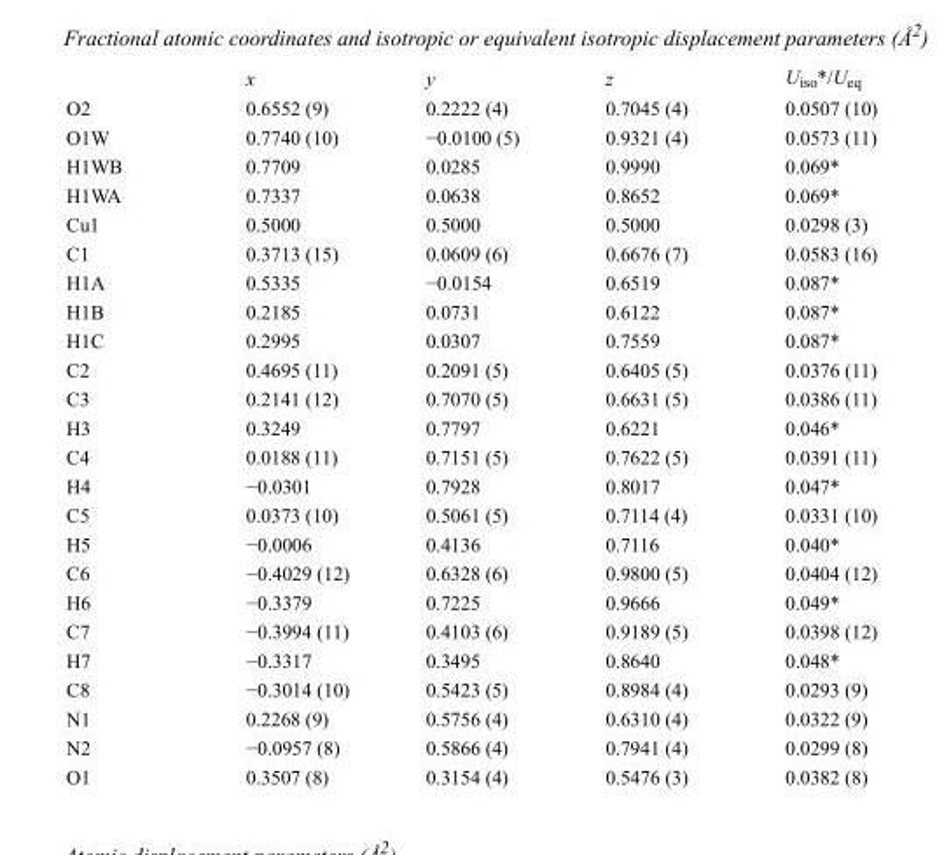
<table><thead><tr><td></td><td>x</td><td>y</td><td>z</td><td>U<sub>iso</sub>*/U<sub>eq</sub></td></tr></thead><tbody><tr><td>O2</td><td>0.6552 (9)</td><td>0.2222 (4)</td><td>0.7045 (4)</td><td>0.0507 (10)</td></tr><tr><td>O1W</td><td>0.7740 (10)</td><td>−0.0100 (5)</td><td>0.9321 (4)</td><td>0.0573 (11)</td></tr><tr><td>H1WB</td><td>0.7709</td><td>0.0285</td><td>0.9990</td><td>0.069*</td></tr><tr><td>H1WA</td><td>0.7337</td><td>0.0638</td><td>0.8652</td><td>0.069*</td></tr><tr><td>Cu1</td><td>0.5000</td><td>0.5000</td><td>0.5000</td><td>0.0298 (3)</td></tr><tr><td>C1</td><td>0.3713 (15)</td><td>0.0609 (6)</td><td>0.6676 (7)</td><td>0.0583 (16)</td></tr><tr><td>H1A</td><td>0.5335</td><td>−0.0154</td><td>0.6519</td><td>0.087*</td></tr><tr><td>H1B</td><td>0.2185</td><td>0.0731</td><td>0.6122</td><td>0.087*</td></tr><tr><td>H1C</td><td>0.2995</td><td>0.0307</td><td>0.7559</td><td>0.087*</td></tr><tr><td>C2</td><td>0.4695 (11)</td><td>0.2091 (5)</td><td>0.6405 (5)</td><td>0.0376 (11)</td></tr><tr><td>C3</td><td>0.2141 (12)</td><td>0.7070 (5)</td><td>0.6631 (5)</td><td>0.0386 (11)</td></tr><tr><td>H3</td><td>0.3249</td><td>0.7797</td><td>0.6221</td><td>0.046*</td></tr><tr><td>C4</td><td>0.0188 (11)</td><td>0.7151 (5)</td><td>0.7622 (5)</td><td>0.0391 (11)</td></tr><tr><td>H4</td><td>−0.0301</td><td>0.7928</td><td>0.8017</td><td>0.047*</td></tr><tr><td>C5</td><td>0.0373 (10)</td><td>0.5061 (5)</td><td>0.7114 (4)</td><td>0.0331 (10)</td></tr><tr><td>H5</td><td>−0.0006</td><td>0.4136</td><td>0.7116</td><td>0.040*</td></tr><tr><td>C6</td><td>−0.4029 (12)</td><td>0.6328 (6)</td><td>0.9800 (5)</td><td>0.0404 (12)</td></tr><tr><td>H6</td><td>−0.3379</td><td>0.7225</td><td>0.9666</td><td>0.049*</td></tr><tr><td>C7</td><td>−0.3994 (11)</td><td>0.4103 (6)</td><td>0.9189 (5)</td><td>0.0398 (12)</td></tr><tr><td>H7</td><td>−0.3317</td><td>0.3495</td><td>0.8640</td><td>0.048*</td></tr><tr><td>C8</td><td>−0.3014 (10)</td><td>0.5423 (5)</td><td>0.8984 (4)</td><td>0.0293 (9)</td></tr><tr><td>N1</td><td>0.2268 (9)</td><td>0.5756 (4)</td><td>0.6310 (4)</td><td>0.0322 (9)</td></tr><tr><td>N2</td><td>−0.0957 (8)</td><td>0.5866 (4)</td><td>0.7941 (4)</td><td>0.0299 (8)</td></tr><tr><td>O1</td><td>0.3507 (8)</td><td>0.3154 (4)</td><td>0.5476 (3)</td><td>0.0382 (8)</td></tr></tbody></table>